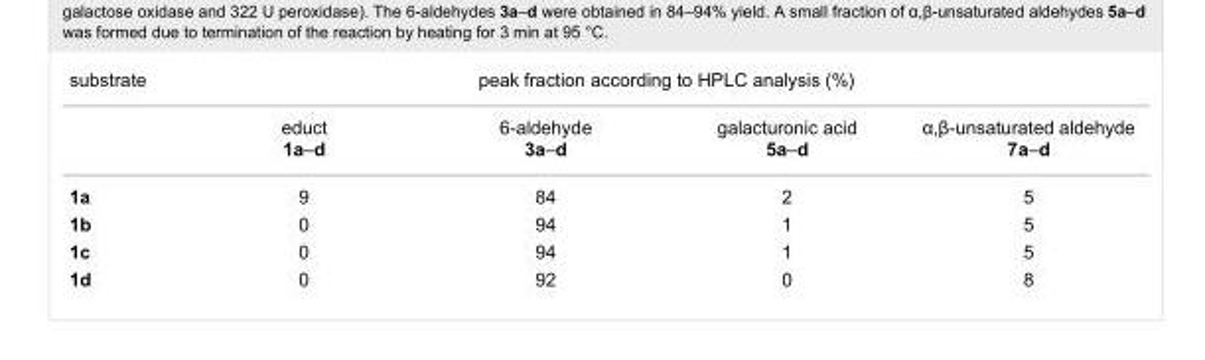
<table><tbody><tr><td rowspan="2">substrate</td><td colspan="4">peak fraction according to HPLC analysis (%)</td></tr><tr><td>educt 1a–d</td><td>6-aldehyde 3a–d</td><td>galacturonic acid 5a–d</td><td>α,β-unsaturated aldehyde 7a–d</td></tr><tr><td>1a</td><td>9</td><td>84</td><td>2</td><td>5</td></tr><tr><td>1b</td><td>0</td><td>94</td><td>1</td><td>5</td></tr><tr><td>1c</td><td>0</td><td>94</td><td>1</td><td>5</td></tr><tr><td>1d</td><td>0</td><td>92</td><td>0</td><td>8</td></tr></tbody></table>